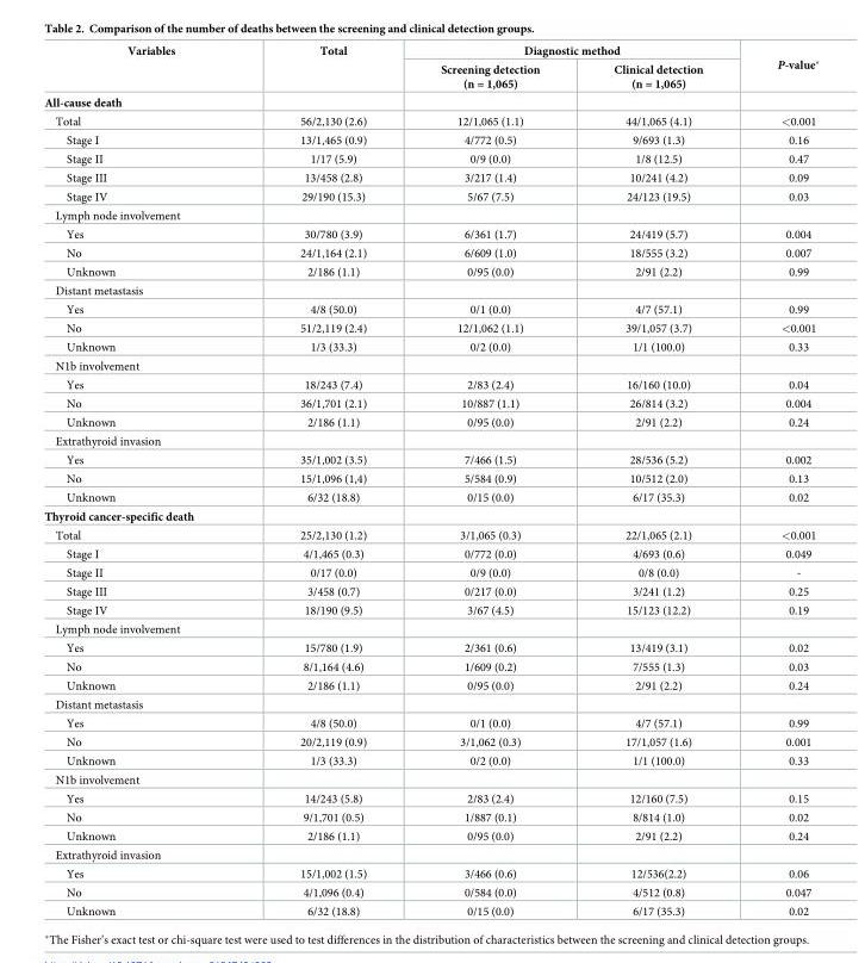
<table><thead><tr><td rowspan="2">Variables</td><td rowspan="2">Total</td><td colspan="2">Diagnostic method</td><td rowspan="2">P-value*</td></tr><tr><td>Screening detection (n = 1,065)</td><td>Clinical detection (n = 1,065)</td></tr></thead><tbody><tr><td colspan="5">All-cause death</td></tr><tr><td>Total</td><td>56/2,130 (2.6)</td><td>12/1,065 (1.1)</td><td>44/1,065 (4.1)</td><td>&lt;0.001</td></tr><tr><td>Stage I</td><td>13/1,465 (0.9)</td><td>4/772 (0.5)</td><td>9/693 (1.3)</td><td>0.16</td></tr><tr><td>Stage II</td><td>1/17 (5.9)</td><td>0/9 (0.0)</td><td>1/8 (12.5)</td><td>0.47</td></tr><tr><td>Stage III</td><td>13/458 (2.8)</td><td>3/217 (1.4)</td><td>10/241 (4.2)</td><td>0.09</td></tr><tr><td>Stage IV</td><td>29/190 (15.3)</td><td>5/67 (7.5)</td><td>24/123 (19.5)</td><td>0.03</td></tr><tr><td colspan="5">Lymph node involvement</td></tr><tr><td>Yes</td><td>30/780 (3.9)</td><td>6/361 (1.7)</td><td>24/419 (5.7)</td><td>0.004</td></tr><tr><td>No</td><td>24/1,164 (2.1)</td><td>6/609 (1.0)</td><td>18/555 (3.2)</td><td>0.007</td></tr><tr><td>Unknown</td><td>2/186 (1.1)</td><td>0/95 (0.0)</td><td>2/91 (2.2)</td><td>0.99</td></tr><tr><td colspan="5">Distant metastasis</td></tr><tr><td>Yes</td><td>4/8 (50.0)</td><td>0/1 (0.0)</td><td>4/7 (57.1)</td><td>0.99</td></tr><tr><td>No</td><td>51/2,119 (2.4)</td><td>12/1,062 (1.1)</td><td>39/1,057 (3.7)</td><td>&lt;0.001</td></tr><tr><td>Unknown</td><td>1/3 (33.3)</td><td>0/2 (0.0)</td><td>1/1 (100.0)</td><td>0.33</td></tr><tr><td colspan="5">N1b involvement</td></tr><tr><td>Yes</td><td>18/243 (7.4)</td><td>2/83 (2.4)</td><td>16/160 (10.0)</td><td>0.04</td></tr><tr><td>No</td><td>36/1,701 (2.1)</td><td>10/887 (1.1)</td><td>26/814 (3.2)</td><td>0.004</td></tr><tr><td>Unknown</td><td>2/186 (1.1)</td><td>0/95 (0.0)</td><td>2/91 (2.2)</td><td>0.24</td></tr><tr><td colspan="5">Extrathyroid invasion</td></tr><tr><td>Yes</td><td>35/1,002 (3.5)</td><td>7/466 (1.5)</td><td>28/536 (5.2)</td><td>0.002</td></tr><tr><td>No</td><td>15/1,096 (1,4)</td><td>5/584 (0.9)</td><td>10/512 (2.0)</td><td>0.13</td></tr><tr><td>Unknown</td><td>6/32 (18.8)</td><td>0/15 (0.0)</td><td>6/17 (35.3)</td><td>0.02</td></tr><tr><td colspan="5">Thyroid cancer-specific death</td></tr><tr><td>Total</td><td>25/2,130 (1.2)</td><td>3/1,065 (0.3)</td><td>22/1,065 (2.1)</td><td>&lt;0.001</td></tr><tr><td>Stage I</td><td>4/1,465 (0.3)</td><td>0/772 (0.0)</td><td>4/693 (0.6)</td><td>0.049</td></tr><tr><td>Stage II</td><td>0/17 (0.0)</td><td>0/9 (0.0)</td><td>0/8 (0.0)</td><td>-</td></tr><tr><td>Stage III</td><td>3/458 (0.7)</td><td>0/217 (0.0)</td><td>3/241 (1.2)</td><td>0.25</td></tr><tr><td>Stage IV</td><td>18/190 (9.5)</td><td>3/67 (4.5)</td><td>15/123 (12.2)</td><td>0.19</td></tr><tr><td colspan="5">Lymph node involvement</td></tr><tr><td>Yes</td><td>15/780 (1.9)</td><td>2/361 (0.6)</td><td>13/419 (3.1)</td><td>0.02</td></tr><tr><td>No</td><td>8/1,164 (4.6)</td><td>1/609 (0.2)</td><td>7/555 (1.3)</td><td>0.03</td></tr><tr><td>Unknown</td><td>2/186 (1.1)</td><td>0/95 (0.0)</td><td>2/91 (2.2)</td><td>0.24</td></tr><tr><td colspan="5">Distant metastasis</td></tr><tr><td>Yes</td><td>4/8 (50.0)</td><td>0/1 (0.0)</td><td>4/7 (57.1)</td><td>0.99</td></tr><tr><td>No</td><td>20/2,119 (0.9)</td><td>3/1,062 (0.3)</td><td>17/1,057 (1.6)</td><td>0.001</td></tr><tr><td>Unknown</td><td>1/3 (33.3)</td><td>0/2 (0.0)</td><td>1/1 (100.0)</td><td>0.33</td></tr><tr><td colspan="5">N1b involvement</td></tr><tr><td>Yes</td><td>14/243 (5.8)</td><td>2/83 (2.4)</td><td>12/160 (7.5)</td><td>0.15</td></tr><tr><td>No</td><td>9/1,701 (0.5)</td><td>1/887 (0.1)</td><td>8/814 (1.0)</td><td>0.02</td></tr><tr><td>Unknown</td><td>2/186 (1.1)</td><td>0/95 (0.0)</td><td>2/91 (2.2)</td><td>0.24</td></tr><tr><td colspan="5">Extrathyroid invasion</td></tr><tr><td>Yes</td><td>15/1,002 (1.5)</td><td>3/466 (0.6)</td><td>12/536(2.2)</td><td>0.06</td></tr><tr><td>No</td><td>4/1,096 (0.4)</td><td>0/584 (0.0)</td><td>4/512 (0.8)</td><td>0.047</td></tr><tr><td>Unknown</td><td>6/32 (18.8)</td><td>0/15 (0.0)</td><td>6/17 (35.3)</td><td>0.02</td></tr></tbody></table>